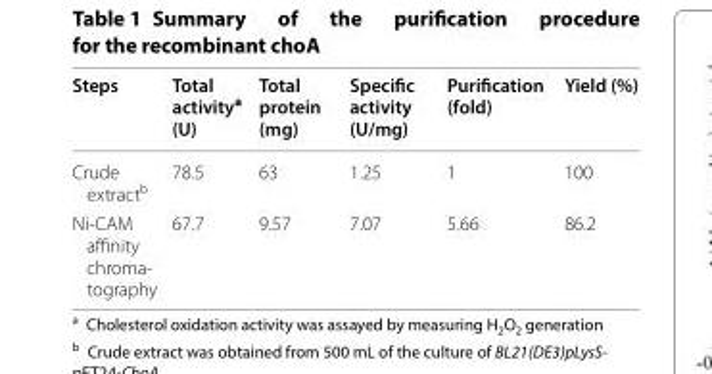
<table><thead><tr><td>Steps</td><td>Total activity<sup>a</sup> (U)</td><td>Total protein (mg)</td><td>Specific activity (U/mg)</td><td>Purification (fold)</td><td>Yield (%)</td></tr></thead><tbody><tr><td>Crude extract<sup>b</sup></td><td>78.5</td><td>63</td><td>1.25</td><td>1</td><td>100</td></tr><tr><td>Ni-CAM affinity chroma- tography</td><td>67.7</td><td>9.57</td><td>7.07</td><td>5.66</td><td>86.2</td></tr></tbody></table>